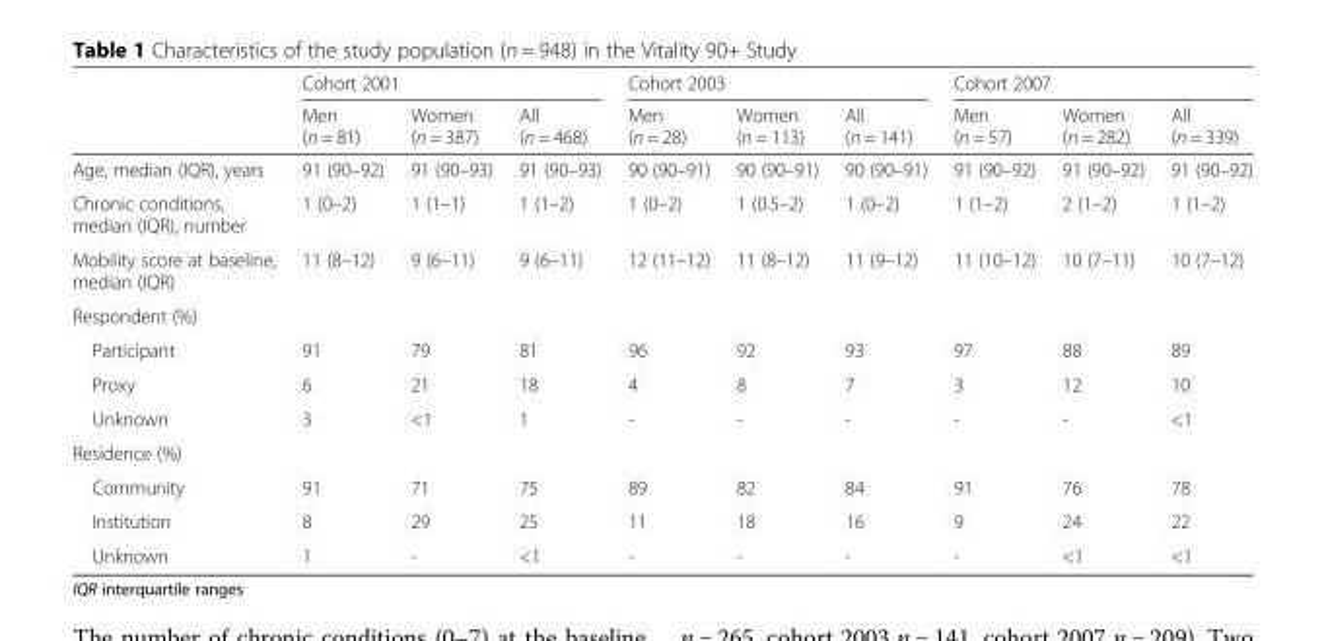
<table><thead><tr><td rowspan="2"></td><td colspan="3">Cohort 2001</td><td colspan="3">Cohort 2003</td><td colspan="3">Cohort 2007</td></tr><tr><td>Men (n = 81)</td><td>Women (n = 387)</td><td>All (n = 468)</td><td>Men (n = 28)</td><td>Women (n = 113)</td><td>All (n = 141)</td><td>Men (n = 57)</td><td>Women (n = 282)</td><td>All (n = 339)</td></tr></thead><tbody><tr><td>Age, median (IQR), years</td><td>91 (90–92)</td><td>91 (90–93)</td><td>91 (90–93)</td><td>90 (90–91)</td><td>90 (90–91)</td><td>90 (90–91)</td><td>91 (90–92)</td><td>91 (90–92)</td><td>91 (90–92)</td></tr><tr><td>Chronic conditions, median (IQR), number</td><td>1 (0–2)</td><td>1 (1–1)</td><td>1 (1–2)</td><td>1 (0–2)</td><td>1 (0.5–2)</td><td>1 (0–2)</td><td>1 (1–2)</td><td>2 (1–2)</td><td>1 (1–2)</td></tr><tr><td>Mobility score at baseline, median (IQR)</td><td>11 (8–12)</td><td>9 (6–11)</td><td>9 (6–11)</td><td>12 (11–12)</td><td>11 (8–12)</td><td>11 (9–12)</td><td>11 (10–12)</td><td>10 (7–11)</td><td>10 (7–12)</td></tr><tr><td colspan="10">Respondent (%)</td></tr><tr><td>Participant</td><td>91</td><td>79</td><td>81</td><td>96</td><td>92</td><td>93</td><td>97</td><td>88</td><td>89</td></tr><tr><td>Proxy</td><td>6</td><td>21</td><td>18</td><td>4</td><td>8</td><td>7</td><td>3</td><td>12</td><td>10</td></tr><tr><td>Unknown</td><td>3</td><td>&lt;1</td><td>1</td><td>-</td><td>-</td><td>-</td><td>-</td><td>-</td><td>&lt;1</td></tr><tr><td colspan="10">Residence (%)</td></tr><tr><td>Community</td><td>91</td><td>71</td><td>75</td><td>89</td><td>82</td><td>84</td><td>91</td><td>76</td><td>78</td></tr><tr><td>Institution</td><td>8</td><td>29</td><td>25</td><td>11</td><td>18</td><td>16</td><td>9</td><td>24</td><td>22</td></tr><tr><td>Unknown</td><td>1</td><td>-</td><td>&lt;1</td><td>-</td><td>-</td><td>-</td><td>-</td><td>&lt;1</td><td>&lt;1</td></tr></tbody></table>